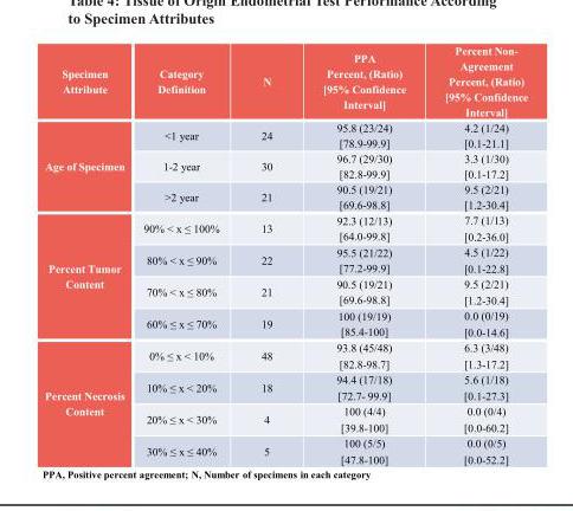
<table><thead><tr><td>Specimen Attribute</td><td>Category Definition</td><td>N</td><td>PPA Percent, (Ratio) [95% Confidence Interval]</td><td>Percent Non- Agreement Percent, (Ratio) [95% Confidence Interval]</td></tr></thead><tbody><tr><td rowspan="3">Age of Specimen</td><td>&lt;1 year</td><td>24</td><td>95.8 (23/24) [78.9-99.9]</td><td>4.2 (1/24) [0.1-21.1]</td></tr><tr><td>1-2 year</td><td>30</td><td>96.7 (29/30) [82.8-99.9]</td><td>3.3 (1/30) [0.1-17.2]</td></tr><tr><td>&gt;2 year</td><td>21</td><td>90.5 (19/21) [69.6-98.8]</td><td>9.5 (2/21) [1.2-30.4]</td></tr><tr><td rowspan="4">Percent Tumor Content</td><td>90% &lt; x ≤ 100%</td><td>13</td><td>92.3 (12/13) [64.0-99.8]</td><td>7.7 (1/13) [0.2-36.0]</td></tr><tr><td>80% &lt; x ≤ 90%</td><td>22</td><td>95.5 (21/22) [77.2-99.9]</td><td>4.5 (1/22) [0.1-22.8]</td></tr><tr><td>70% &lt; x ≤ 80%</td><td>21</td><td>90.5 (19/21) [69.6-98.8]</td><td>9.5 (2/21) [1.2-30.4]</td></tr><tr><td>60% ≤ x ≤ 70%</td><td>19</td><td>100 (19/19) [85.4-100]</td><td>0.0 (0/19) [0.0-14.6]</td></tr><tr><td rowspan="4">Percent Necrosis Content</td><td>0% ≤ x &lt; 10%</td><td>48</td><td>93.8 (45/48) [82.8-98.7]</td><td>6.3 (3/48) [1.3-17.2]</td></tr><tr><td>10% ≤ x &lt; 20%</td><td>18</td><td>94.4 (17/18) [72.7- 99.9]</td><td>5.6 (1/18) [0.1-27.3]</td></tr><tr><td>20% ≤ x &lt; 30%</td><td>4</td><td>100 (4/4) [39.8-100]</td><td>0.0 (0/4) [0.0-60.2]</td></tr><tr><td>30% ≤ x ≤ 40%</td><td>5</td><td>100 (5/5) [47.8-100]</td><td>0.0 (0/5) [0.0-52.2]</td></tr></tbody></table>